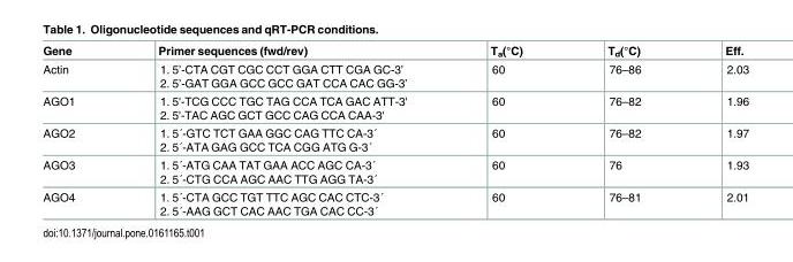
<table><thead><tr><td>Gene</td><td>Primer sequences (fwd/rev)</td><td>T<sub>a</sub>(°C)</td><td>T<sub>d</sub>(°C)</td><td>Eff.</td></tr></thead><tbody><tr><td>Actin</td><td>1. 5’-CTA CGT CGC CCT GGA CTT CGA GC-3’ 2. 5’-GAT GGA GCC GCC GAT CCA CAC GG-3’</td><td>60</td><td>76–86</td><td>2.03</td></tr><tr><td>AGO1</td><td>1. 5&#x27;-TCG CCC TGC TAG CCA TCA GAC ATT-3&#x27; 2. 5&#x27;-TAC AGC GCT GCC CAG CCA CAA-3&#x27;</td><td>60</td><td>76–82</td><td>1.96</td></tr><tr><td>AGO2</td><td>1. 5´-GTC TCT GAA GGC CAG TTC CA-3´ 2. 5´-ATA GAG GCC TCA CGG ATG G-3´</td><td>60</td><td>76–82</td><td>1.97</td></tr><tr><td>AGO3</td><td>1. 5´-ATG CAA TAT GAA ACC AGC CA-3´ 2. 5´-CTG CCA AGC AAC TTG AGG TA-3´</td><td>60</td><td>76</td><td>1.93</td></tr><tr><td>AGO4</td><td>1. 5´-CTA GCC TGT TTC AGC CAC CTC-3´ 2. 5´-AAG GCT CAC AAC TGA CAC CC-3´</td><td>60</td><td>76–81</td><td>2.01</td></tr></tbody></table>